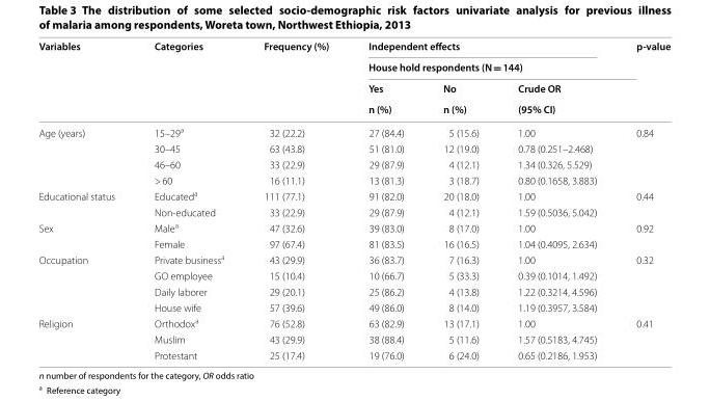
<table><thead><tr><td rowspan="4">Variables</td><td rowspan="4">Categories</td><td rowspan="4">Frequency (%)</td><td rowspan="2" colspan="3">Independent effects House hold respondents (N = 144)</td><td rowspan="4">p-value</td></tr><tr></tr><tr><td rowspan="2">Yes n (%)</td><td rowspan="2">No n (%)</td><td rowspan="2">Crude OR (95% CI)</td></tr><tr></tr></thead><tbody><tr><td rowspan="4">Age (years)</td><td>15–29<sup>a</sup></td><td>32 (22.2)</td><td>27 (84.4)</td><td>5 (15.6)</td><td>1.00</td><td rowspan="4">0.84</td></tr><tr><td>30–45</td><td>63 (43.8)</td><td>51 (81.0)</td><td>12 (19.0)</td><td>0.78 (0.251–2.468)</td></tr><tr><td>46–60</td><td>33 (22.9)</td><td>29 (87.9)</td><td>4 (12.1)</td><td>1.34 (0.326, 5.529)</td></tr><tr><td>&gt; 60</td><td>16 (11.1)</td><td>13 (81.3)</td><td>3 (18.7)</td><td>0.80 (0.1658, 3.883)</td></tr><tr><td rowspan="2">Educational status</td><td>Educated<sup>a</sup></td><td>111 (77.1)</td><td>91 (82.0)</td><td>20 (18.0)</td><td>1.00</td><td rowspan="2">0.44</td></tr><tr><td>Non-educated</td><td>33 (22.9)</td><td>29 (87.9)</td><td>4 (12.1)</td><td>1.59 (0.5036, 5.042)</td></tr><tr><td rowspan="2">Sex</td><td>Male<sup>a</sup></td><td>47 (32.6)</td><td>39 (83.0)</td><td>8 (17.0)</td><td>1.00</td><td rowspan="2">0.92</td></tr><tr><td>Female</td><td>97 (67.4)</td><td>81 (83.5)</td><td>16 (16.5)</td><td>1.04 (0.4095, 2.634)</td></tr><tr><td rowspan="4">Occupation</td><td>Private business<sup>a</sup></td><td>43 (29.9)</td><td>36 (83.7)</td><td>7 (16.3)</td><td>1.00</td><td rowspan="4">0.32</td></tr><tr><td>GO employee</td><td>15 (10.4)</td><td>10 (66.7)</td><td>5 (33.3)</td><td>0.39 (0.1014, 1.492)</td></tr><tr><td>Daily laborer</td><td>29 (20.1)</td><td>25 (86.2)</td><td>4 (13.8)</td><td>1.22 (0.3214, 4.596)</td></tr><tr><td>House wife</td><td>57 (39.6)</td><td>49 (86.0)</td><td>8 (14.0)</td><td>1.19 (0.3957, 3.584)</td></tr><tr><td rowspan="3">Religion</td><td>Orthodox<sup>a</sup></td><td>76 (52.8)</td><td>63 (82.9)</td><td>13 (17.1)</td><td>1.00</td><td rowspan="3">0.41</td></tr><tr><td>Muslim</td><td>43 (29.9)</td><td>38 (88.4)</td><td>5 (11.6)</td><td>1.57 (0.5183, 4.745)</td></tr><tr><td>Protestant</td><td>25 (17.4)</td><td>19 (76.0)</td><td>6 (24.0)</td><td>0.65 (0.2186, 1.953)</td></tr></tbody></table>